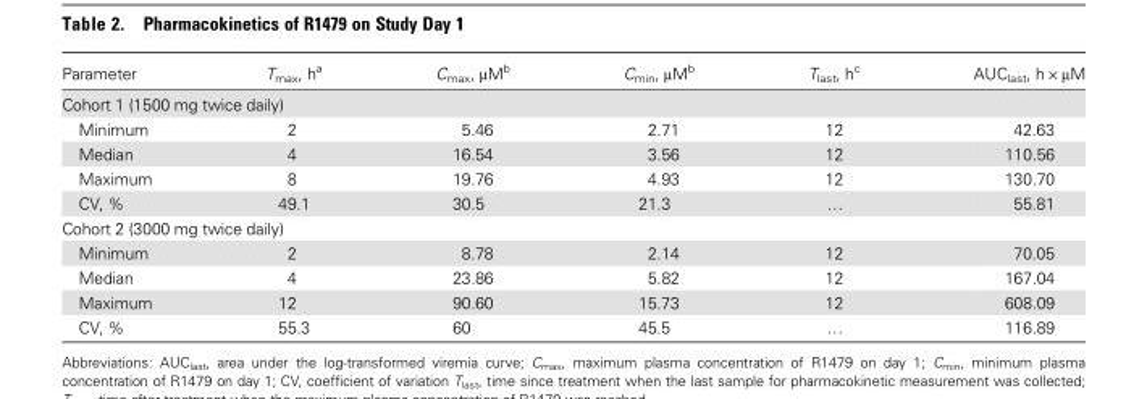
<table><thead><tr><td>Parameter</td><td>T<sub>max</sub>, h<sup>a</sup></td><td>C<sub>max</sub>, μM<sup>b</sup></td><td>C<sub>min</sub>, μM<sup>b</sup></td><td>T<sub>last</sub>, h<sup>c</sup></td><td>AUC<sub>last</sub>, h × μM</td></tr></thead><tbody><tr><td colspan="6">Cohort 1 (1500 mg twice daily)</td></tr><tr><td>Minimum</td><td>2</td><td>5.46</td><td>2.71</td><td>12</td><td>42.63</td></tr><tr><td>Median</td><td>4</td><td>16.54</td><td>3.56</td><td>12</td><td>110.56</td></tr><tr><td>Maximum</td><td>8</td><td>19.76</td><td>4.93</td><td>12</td><td>130.70</td></tr><tr><td>CV, %</td><td>49.1</td><td>30.5</td><td>21.3</td><td>…</td><td>55.81</td></tr><tr><td colspan="6">Cohort 2 (3000 mg twice daily)</td></tr><tr><td>Minimum</td><td>2</td><td>8.78</td><td>2.14</td><td>12</td><td>70.05</td></tr><tr><td>Median</td><td>4</td><td>23.86</td><td>5.82</td><td>12</td><td>167.04</td></tr><tr><td>Maximum</td><td>12</td><td>90.60</td><td>15.73</td><td>12</td><td>608.09</td></tr><tr><td>CV, %</td><td>55.3</td><td>60</td><td>45.5</td><td>…</td><td>116.89</td></tr></tbody></table>